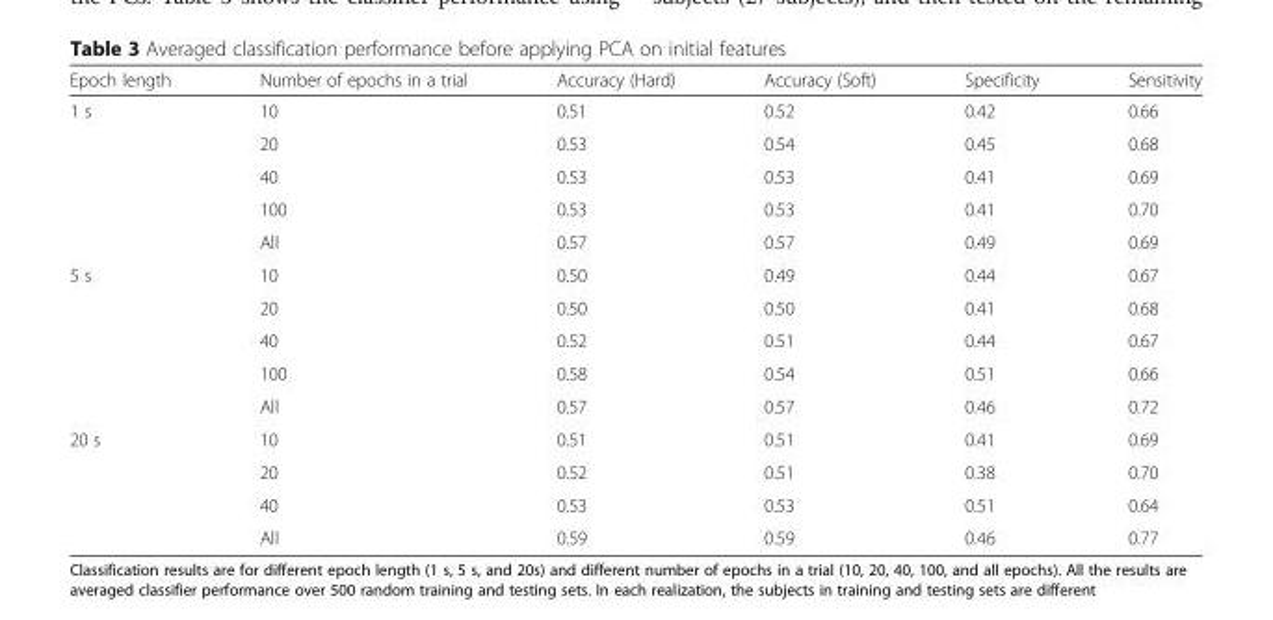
<table><thead><tr><td>Epoch length</td><td>Number of epochs in a trial</td><td>Accuracy (Hard)</td><td>Accuracy (Soft)</td><td>Specificity</td><td>Sensitivity</td></tr></thead><tbody><tr><td rowspan="5">1 s</td><td>10</td><td>0.51</td><td>0.52</td><td>0.42</td><td>0.66</td></tr><tr><td>20</td><td>0.53</td><td>0.54</td><td>0.45</td><td>0.68</td></tr><tr><td>40</td><td>0.53</td><td>0.53</td><td>0.41</td><td>0.69</td></tr><tr><td>100</td><td>0.53</td><td>0.53</td><td>0.41</td><td>0.70</td></tr><tr><td>All</td><td>0.57</td><td>0.57</td><td>0.49</td><td>0.69</td></tr><tr><td rowspan="5">5 s</td><td>10</td><td>0.50</td><td>0.49</td><td>0.44</td><td>0.67</td></tr><tr><td>20</td><td>0.50</td><td>0.50</td><td>0.41</td><td>0.68</td></tr><tr><td>40</td><td>0.52</td><td>0.51</td><td>0.44</td><td>0.67</td></tr><tr><td>100</td><td>0.58</td><td>0.54</td><td>0.51</td><td>0.66</td></tr><tr><td>All</td><td>0.57</td><td>0.57</td><td>0.46</td><td>0.72</td></tr><tr><td rowspan="4">20 s</td><td>10</td><td>0.51</td><td>0.51</td><td>0.41</td><td>0.69</td></tr><tr><td>20</td><td>0.52</td><td>0.51</td><td>0.38</td><td>0.70</td></tr><tr><td>40</td><td>0.53</td><td>0.53</td><td>0.51</td><td>0.64</td></tr><tr><td>All</td><td>0.59</td><td>0.59</td><td>0.46</td><td>0.77</td></tr></tbody></table>